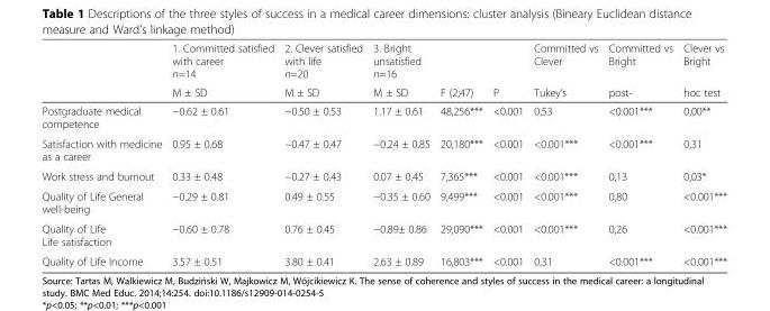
<table><thead><tr><td rowspan="2"></td><td rowspan="2">1. Committed satisfied with career n=14 M ± SD</td><td rowspan="2">2. Clever satisfied with life n=20 M ± SD</td><td rowspan="2">3. Bright unsatisfied n=16 M ± SD</td><td rowspan="2">F (2;47)</td><td rowspan="2">P</td><td rowspan="2">Committed vs Clever Tukey’s</td><td rowspan="2">Committed vs Bright post-</td><td rowspan="2">Clever vs Bright hoc test</td></tr><tr></tr></thead><tbody><tr><td>Postgraduate medical competence</td><td>−0.62 ± 0.61</td><td>−0.50 ± 0.53</td><td>1.17 ± 0.61</td><td>48,256***</td><td>&lt;0.001</td><td>0,53</td><td>&lt;0.001***</td><td>0,00**</td></tr><tr><td>Satisfaction with medicine as a career</td><td>0.95 ± 0.68</td><td>−0.47 ± 0.47</td><td>−0.24 ± 0.85</td><td>20,180***</td><td>&lt;0.001</td><td>&lt;0.001***</td><td>&lt;0.001***</td><td>0,31</td></tr><tr><td>Work stress and burnout</td><td>0.33 ± 0.48</td><td>−0.27 ± 0.43</td><td>0.07 ± 0.45</td><td>7,365***</td><td>&lt;0.001</td><td>&lt;0.001***</td><td>0,13</td><td>0,03*</td></tr><tr><td>Quality of Life General well-being</td><td>−0.29 ± 0.81</td><td>0.49 ± 0.55</td><td>−0.35 ± 0.60</td><td>9,499***</td><td>&lt;0.001</td><td>&lt;0.001***</td><td>0,80</td><td>&lt;0.001***</td></tr><tr><td>Quality of Life Life satisfaction</td><td>−0.60 ± 0.78</td><td>0.76 ± 0.45</td><td>−0.89± 0.86</td><td>29,090***</td><td>&lt;0.001</td><td>&lt;0.001***</td><td>0,26</td><td>&lt;0.001***</td></tr><tr><td>Quality of Life Income</td><td>3.57 ± 0.51</td><td>3.80 ± 0.41</td><td>2.63 ± 0.89</td><td>16,803***</td><td>&lt;0.001</td><td>0,31</td><td>&lt;0.001***</td><td>&lt;0.001***</td></tr></tbody></table>